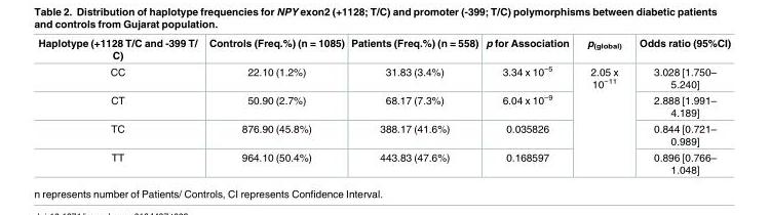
<table><thead><tr><td>Haplotype (+1128 T/C and -399 T/ C)</td><td>Controls (Freq.%) (n = 1085)</td><td>Patients (Freq.%) (n = 558)</td><td>p for Association</td><td>p<sub>(global)</sub></td><td>Odds ratio (95%CI)</td></tr></thead><tbody><tr><td>CC</td><td>22.10 (1.2%)</td><td>31.83 (3.4%)</td><td>3.34 x 10<sup>−5</sup></td><td rowspan="4">2.05 x 10<sup>−11</sup></td><td>3.028 [1.750– 5.240]</td></tr><tr><td>CT</td><td>50.90 (2.7%)</td><td>68.17 (7.3%)</td><td>6.04 x 10<sup>−9</sup></td><td>2.888 [1.991– 4.189]</td></tr><tr><td>TC</td><td>876.90 (45.8%)</td><td>388.17 (41.6%)</td><td>0.035826</td><td>0.844 [0.721– 0.989]</td></tr><tr><td>TT</td><td>964.10 (50.4%)</td><td>443.83 (47.6%)</td><td>0.168597</td><td>0.896 [0.766– 1.048]</td></tr></tbody></table>